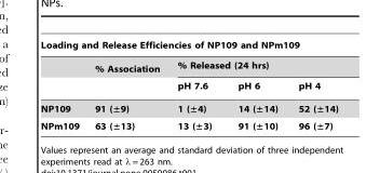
<table><thead><tr><td colspan="5">Loading and Release Efficiencies of NP109 and NPm109</td></tr><tr><td rowspan="2"></td><td rowspan="2">% Association</td><td colspan="3">% Released (24 hrs)</td></tr><tr><td>pH 7.6</td><td>pH 6</td><td>pH 4</td></tr></thead><tbody><tr><td>NP109</td><td>91 (±9)</td><td>1 (±4)</td><td>14 (±14)</td><td>52 (±14)</td></tr><tr><td>NPm109</td><td>63 (±13)</td><td>13 (±3)</td><td>91 (±10)</td><td>96 (±7)</td></tr></tbody></table>